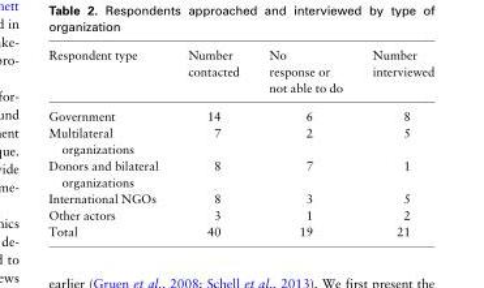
<table><thead><tr><td>Respondent type</td><td>Number contacted</td><td>No response or not able to do</td><td>Number interviewed</td></tr></thead><tbody><tr><td>Government</td><td>14</td><td>6</td><td>8</td></tr><tr><td>Multilateral organizations</td><td>7</td><td>2</td><td>5</td></tr><tr><td>Donors and bilateral organizations</td><td>8</td><td>7</td><td>1</td></tr><tr><td>International NGOs</td><td>8</td><td>3</td><td>5</td></tr><tr><td>Other actors</td><td>3</td><td>1</td><td>2</td></tr><tr><td>Total</td><td>40</td><td>19</td><td>21</td></tr></tbody></table>